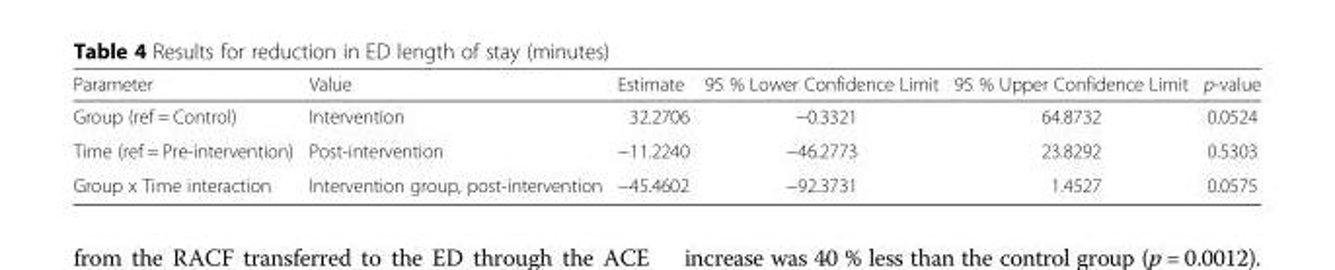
<table><thead><tr><td>Parameter</td><td>Value</td><td>Estimate</td><td>95 % Lower Confidence Limit</td><td>95 % Upper Confidence Limit</td><td>p-value</td></tr></thead><tbody><tr><td>Group (ref = Control)</td><td>Intervention</td><td>32.2706</td><td>−0.3321</td><td>64.8732</td><td>0.0524</td></tr><tr><td>Time (ref = Pre-intervention)</td><td>Post-intervention</td><td>−11.2240</td><td>−46.2773</td><td>23.8292</td><td>0.5303</td></tr><tr><td>Group x Time interaction</td><td>Intervention group, post-intervention</td><td>−45.4602</td><td>−92.3731</td><td>1.4527</td><td>0.0575</td></tr></tbody></table>